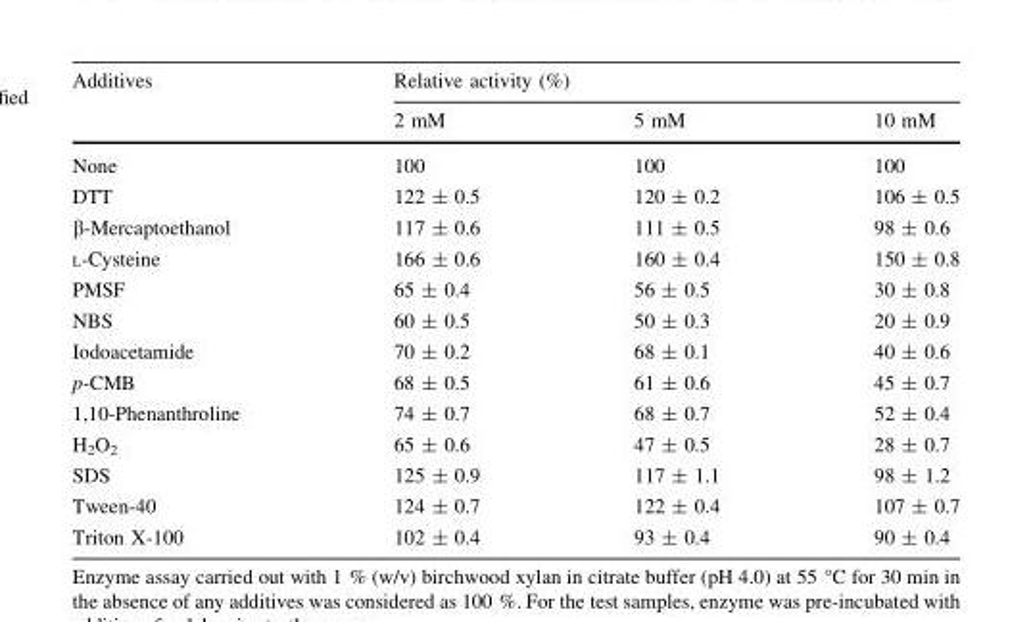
<table><thead><tr><td rowspan="2">Additives</td><td colspan="3">Relative activity (%)</td></tr><tr><td>2 mM</td><td>5 mM</td><td>10 mM</td></tr></thead><tbody><tr><td>None</td><td>100</td><td>100</td><td>100</td></tr><tr><td>DTT</td><td>122 ± 0.5</td><td>120 ± 0.2</td><td>106 ± 0.5</td></tr><tr><td>β-Mercaptoethanol</td><td>117 ± 0.6</td><td>111 ± 0.5</td><td>98 ± 0.6</td></tr><tr><td>L-Cysteine</td><td>166 ± 0.6</td><td>160 ± 0.4</td><td>150 ± 0.8</td></tr><tr><td>PMSF</td><td>65 ± 0.4</td><td>56 ± 0.5</td><td>30 ± 0.8</td></tr><tr><td>NBS</td><td>60 ± 0.5</td><td>50 ± 0.3</td><td>20 ± 0.9</td></tr><tr><td>Iodoacetamide</td><td>70 ± 0.2</td><td>68 ± 0.1</td><td>40 ± 0.6</td></tr><tr><td>p-CMB</td><td>68 ± 0.5</td><td>61 ± 0.6</td><td>45 ± 0.7</td></tr><tr><td>1,10-Phenanthroline</td><td>74 ± 0.7</td><td>68 ± 0.7</td><td>52 ± 0.4</td></tr><tr><td>H<sub>2</sub>O<sub>2</sub></td><td>65 ± 0.6</td><td>47 ± 0.5</td><td>28 ± 0.7</td></tr><tr><td>SDS</td><td>125 ± 0.9</td><td>117 ± 1.1</td><td>98 ± 1.2</td></tr><tr><td>Tween-40</td><td>124 ± 0.7</td><td>122 ± 0.4</td><td>107 ± 0.7</td></tr><tr><td>Triton X-100</td><td>102 ± 0.4</td><td>93 ± 0.4</td><td>90 ± 0.4</td></tr></tbody></table>